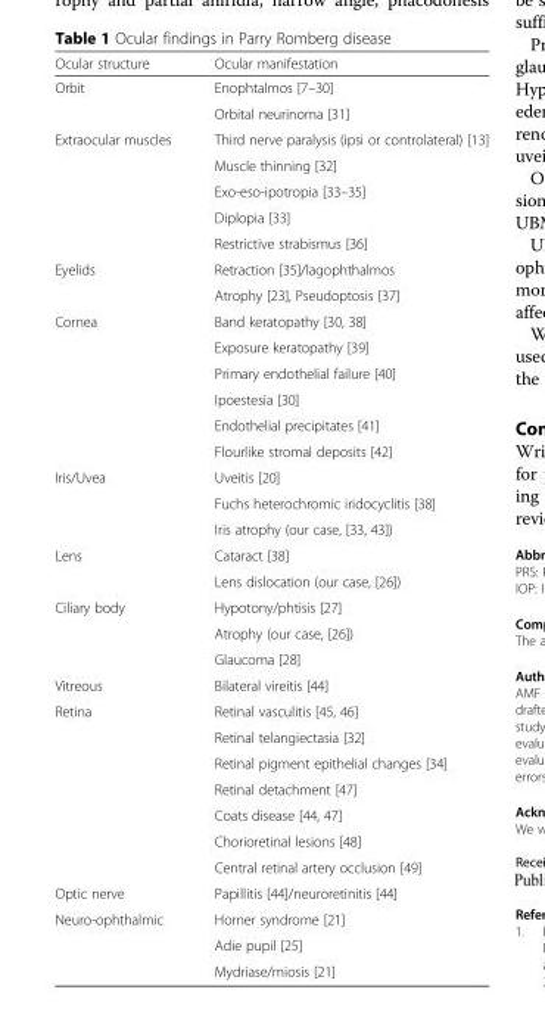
<table><thead><tr><td>Ocular structure</td><td>Ocular manifestation</td></tr></thead><tbody><tr><td rowspan="2">Orbit</td><td>Enophtalmos [7–30]</td></tr><tr><td>Orbital neurinoma [31]</td></tr><tr><td rowspan="5">Extraocular muscles</td><td>Third nerve paralysis (ipsi or controlateral) [13]</td></tr><tr><td>Muscle thinning [32]</td></tr><tr><td>Exo-eso-ipotropia [33–35]</td></tr><tr><td>Diplopia [33]</td></tr><tr><td>Restrictive strabismus [36]</td></tr><tr><td rowspan="2">Eyelids</td><td>Retraction [35]/lagophthalmos</td></tr><tr><td>Atrophy [23], Pseudoptosis [37]</td></tr><tr><td rowspan="6">Cornea</td><td>Band keratopathy [30, 38]</td></tr><tr><td>Exposure keratopathy [39]</td></tr><tr><td>Primary endothelial failure [40]</td></tr><tr><td>Ipoestesia [30]</td></tr><tr><td>Endothelial precipitates [41]</td></tr><tr><td>Flourlike stromal deposits [42]</td></tr><tr><td rowspan="3">Iris/Uvea</td><td>Uveitis [20]</td></tr><tr><td>Fuchs heterochromic iridocyclitis [38]</td></tr><tr><td>Iris atrophy (our case, [33, 43])</td></tr><tr><td rowspan="2">Lens</td><td>Cataract [38]</td></tr><tr><td>Lens dislocation (our case, [26])</td></tr><tr><td rowspan="3">Ciliary body</td><td>Hypotony/phtisis [27]</td></tr><tr><td>Atrophy (our case, [26])</td></tr><tr><td>Glaucoma [28]</td></tr><tr><td>Vitreous</td><td>Bilateral vireitis [44]</td></tr><tr><td rowspan="7">Retina</td><td>Retinal vasculitis [45, 46]</td></tr><tr><td>Retinal telangiectasia [32]</td></tr><tr><td>Retinal pigment epithelial changes [34]</td></tr><tr><td>Retinal detachment [47]</td></tr><tr><td>Coats disease [44, 47]</td></tr><tr><td>Chorioretinal lesions [48]</td></tr><tr><td>Central retinal artery occlusion [49]</td></tr><tr><td>Optic nerve</td><td>Papillitis [44]/neuroretinitis [44]</td></tr><tr><td rowspan="3">Neuro-ophthalmic</td><td>Horner syndrome [21]</td></tr><tr><td>Adie pupil [25]</td></tr><tr><td>Mydriase/miosis [21]</td></tr></tbody></table>